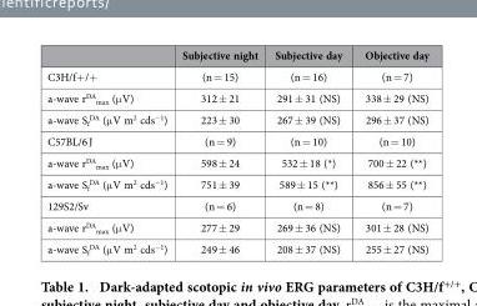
<table><thead><tr><td></td><td>Subjective night</td><td>Subjective day</td><td>Objective day</td></tr></thead><tbody><tr><td>C3H/f+ /+</td><td>(n = 15)</td><td>(n = 16)</td><td>(n = 7)</td></tr><tr><td>a-wave r<sup>DA</sup> <sub>max</sub> (μ V)</td><td>312 ± 21</td><td>291 ± 31 (NS)</td><td>338 ± 29 (NS)</td></tr><tr><td>a-wave S<sub>f</sub> <sup>DA</sup> (μ V m<sup>2</sup> cds<sup>−1</sup>)</td><td>223 ± 30</td><td>267 ± 39 (NS)</td><td>296 ± 37 (NS)</td></tr><tr><td>C57BL/6 J</td><td>(n = 9)</td><td>(n = 10)</td><td>(n = 10)</td></tr><tr><td>a-wave r<sup>DA</sup> <sub>max</sub> (μ V)</td><td>598 ± 24</td><td>532 ± 18 (*)</td><td>700 ± 22 (**)</td></tr><tr><td>a-wave S<sub>f</sub> <sup>DA</sup> (μ V m<sup>2</sup> cds<sup>−1</sup>)</td><td>751 ± 39</td><td>589 ± 15 (**)</td><td>856 ± 55 (**)</td></tr><tr><td>129S2/Sv</td><td>(n = 6)</td><td>(n = 8)</td><td>(n = 7)</td></tr><tr><td>a-wave r<sup>DA</sup> <sub>max</sub> (μ V)</td><td>277 ± 29</td><td>269 ± 36 (NS)</td><td>301 ± 28 (NS)</td></tr><tr><td>a-wave S<sub>f</sub> <sup>DA</sup> (μ V m<sup>2</sup> cds<sup>−1</sup>)</td><td>249 ± 46</td><td>208 ± 37 (NS)</td><td>255 ± 27 (NS)</td></tr></tbody></table>